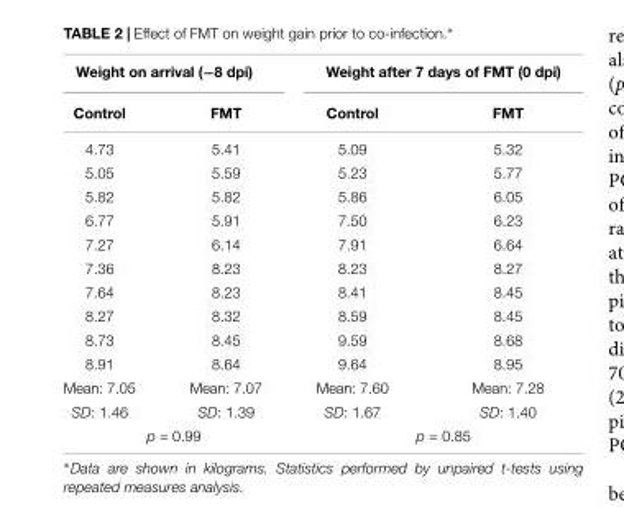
<table><thead><tr><td colspan="2">Weight on arrival (−8 dpi)</td><td colspan="2">Weight after 7 days of FMT (0 dpi)</td></tr><tr><td>Control</td><td>FMT</td><td>Control</td><td>FMT</td></tr></thead><tbody><tr><td>4.73</td><td>5.41</td><td>5.09</td><td>5.32</td></tr><tr><td>5.05</td><td>5.59</td><td>5.23</td><td>5.77</td></tr><tr><td>5.82</td><td>5.82</td><td>5.86</td><td>6.05</td></tr><tr><td>6.77</td><td>5.91</td><td>7.50</td><td>6.23</td></tr><tr><td>7.27</td><td>6.14</td><td>7.91</td><td>6.64</td></tr><tr><td>7.36</td><td>8.23</td><td>8.23</td><td>8.27</td></tr><tr><td>7.64</td><td>8.23</td><td>8.41</td><td>8.45</td></tr><tr><td>8.27</td><td>8.32</td><td>8.59</td><td>8.45</td></tr><tr><td>8.73</td><td>8.45</td><td>9.59</td><td>8.68</td></tr><tr><td>8.91</td><td>8.64</td><td>9.64</td><td>8.95</td></tr><tr><td>Mean: 7.05</td><td>Mean: 7.07</td><td>Mean: 7.60</td><td>Mean: 7.28</td></tr><tr><td>SD: 1.46</td><td>SD: 1.39</td><td>SD: 1.67</td><td>SD: 1.40</td></tr><tr><td colspan="2">p = 0.99</td><td colspan="2">p = 0.85</td></tr></tbody></table>